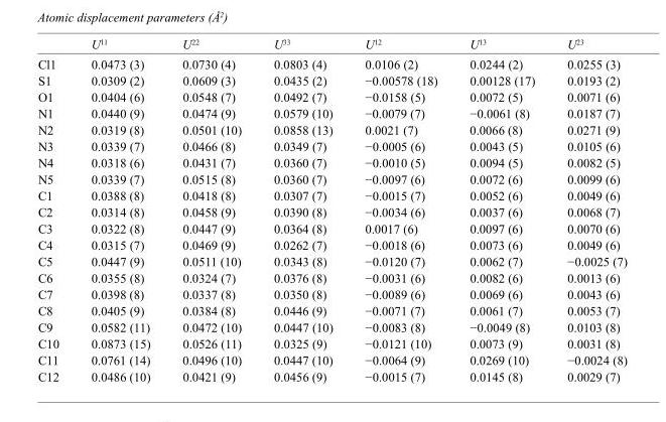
<table><thead><tr><td></td><td>U<sup>11</sup></td><td>U<sup>22</sup></td><td>U<sup>33</sup></td><td>U<sup>12</sup></td><td>U<sup>13</sup></td><td>U<sup>23</sup></td></tr></thead><tbody><tr><td>Cl1</td><td>0.0473 (3)</td><td>0.0730 (4)</td><td>0.0803 (4)</td><td>0.0106 (2)</td><td>0.0244 (2)</td><td>0.0255 (3)</td></tr><tr><td>S1</td><td>0.0309 (2)</td><td>0.0609 (3)</td><td>0.0435 (2)</td><td>−0.00578 (18)</td><td>0.00128 (17)</td><td>0.0193 (2)</td></tr><tr><td>O1</td><td>0.0404 (6)</td><td>0.0548 (7)</td><td>0.0492 (7)</td><td>−0.0158 (5)</td><td>0.0072 (5)</td><td>0.0071 (6)</td></tr><tr><td>N1</td><td>0.0440 (9)</td><td>0.0474 (9)</td><td>0.0579 (10)</td><td>−0.0079 (7)</td><td>−0.0061 (8)</td><td>0.0187 (7)</td></tr><tr><td>N2</td><td>0.0319 (8)</td><td>0.0501 (10)</td><td>0.0858 (13)</td><td>0.0021 (7)</td><td>0.0066 (8)</td><td>0.0271 (9)</td></tr><tr><td>N3</td><td>0.0339 (7)</td><td>0.0466 (8)</td><td>0.0349 (7)</td><td>−0.0005 (6)</td><td>0.0043 (5)</td><td>0.0105 (6)</td></tr><tr><td>N4</td><td>0.0318 (6)</td><td>0.0431 (7)</td><td>0.0360 (7)</td><td>−0.0010 (5)</td><td>0.0094 (5)</td><td>0.0082 (5)</td></tr><tr><td>N5</td><td>0.0339 (7)</td><td>0.0515 (8)</td><td>0.0360 (7)</td><td>−0.0097 (6)</td><td>0.0072 (6)</td><td>0.0099 (6)</td></tr><tr><td>C1</td><td>0.0388 (8)</td><td>0.0418 (8)</td><td>0.0307 (7)</td><td>−0.0015 (7)</td><td>0.0052 (6)</td><td>0.0049 (6)</td></tr><tr><td>C2</td><td>0.0314 (8)</td><td>0.0458 (9)</td><td>0.0390 (8)</td><td>−0.0034 (6)</td><td>0.0037 (6)</td><td>0.0068 (7)</td></tr><tr><td>C3</td><td>0.0322 (8)</td><td>0.0447 (9)</td><td>0.0364 (8)</td><td>0.0017 (6)</td><td>0.0097 (6)</td><td>0.0070 (6)</td></tr><tr><td>C4</td><td>0.0315 (7)</td><td>0.0469 (9)</td><td>0.0262 (7)</td><td>−0.0018 (6)</td><td>0.0073 (6)</td><td>0.0049 (6)</td></tr><tr><td>C5</td><td>0.0447 (9)</td><td>0.0511 (10)</td><td>0.0343 (8)</td><td>−0.0120 (7)</td><td>0.0062 (7)</td><td>−0.0025 (7)</td></tr><tr><td>C6</td><td>0.0355 (8)</td><td>0.0324 (7)</td><td>0.0376 (8)</td><td>−0.0031 (6)</td><td>0.0082 (6)</td><td>0.0013 (6)</td></tr><tr><td>C7</td><td>0.0398 (8)</td><td>0.0337 (8)</td><td>0.0350 (8)</td><td>−0.0089 (6)</td><td>0.0069 (6)</td><td>0.0043 (6)</td></tr><tr><td>C8</td><td>0.0405 (9)</td><td>0.0384 (8)</td><td>0.0446 (9)</td><td>−0.0071 (7)</td><td>0.0061 (7)</td><td>0.0053 (7)</td></tr><tr><td>C9</td><td>0.0582 (11)</td><td>0.0472 (10)</td><td>0.0447 (10)</td><td>−0.0083 (8)</td><td>−0.0049 (8)</td><td>0.0103 (8)</td></tr><tr><td>C10</td><td>0.0873 (15)</td><td>0.0526 (11)</td><td>0.0325 (9)</td><td>−0.0121 (10)</td><td>0.0073 (9)</td><td>0.0031 (8)</td></tr><tr><td>C11</td><td>0.0761 (14)</td><td>0.0496 (10)</td><td>0.0447 (10)</td><td>−0.0064 (9)</td><td>0.0269 (10)</td><td>−0.0024 (8)</td></tr><tr><td>C12</td><td>0.0486 (10)</td><td>0.0421 (9)</td><td>0.0456 (9)</td><td>−0.0015 (7)</td><td>0.0145 (8)</td><td>0.0029 (7)</td></tr></tbody></table>